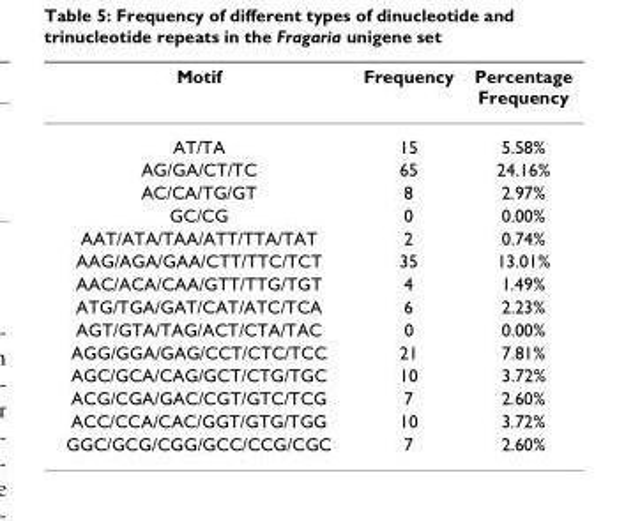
<table><thead><tr><td>Motif</td><td>Frequency</td><td>Percentage Frequency</td></tr></thead><tbody><tr><td>AT/TA</td><td>15</td><td>5.58%</td></tr><tr><td>AG/GA/CT/TC</td><td>65</td><td>24.16%</td></tr><tr><td>AC/CA/TG/GT</td><td>8</td><td>2.97%</td></tr><tr><td>GC/CG</td><td>0</td><td>0.00%</td></tr><tr><td>AAT/ATA/TAA/ATT/TTA/TAT</td><td>2</td><td>0.74%</td></tr><tr><td>AAG/AGA/GAA/CTT/TTC/TCT</td><td>35</td><td>13.01%</td></tr><tr><td>AAC/ACA/CAA/GTT/TTG/TGT</td><td>4</td><td>1.49%</td></tr><tr><td>ATG/TGA/GAT/CAT/ATC/TCA</td><td>6</td><td>2.23%</td></tr><tr><td>AGT/GTA/TAG/ACT/CTA/TAC</td><td>0</td><td>0.00%</td></tr><tr><td>AGG/GGA/GAG/CCT/CTC/TCC</td><td>21</td><td>7.81%</td></tr><tr><td>AGC/GCA/CAG/GCT/CTG/TGC</td><td>10</td><td>3.72%</td></tr><tr><td>ACG/CGA/GAC/CGT/GTC/TCG</td><td>7</td><td>2.60%</td></tr><tr><td>ACC/CCA/CAC/GGT/GTG/TGG</td><td>10</td><td>3.72%</td></tr><tr><td>GGC/GCG/CGG/GCC/CCG/CGC</td><td>7</td><td>2.60%</td></tr></tbody></table>